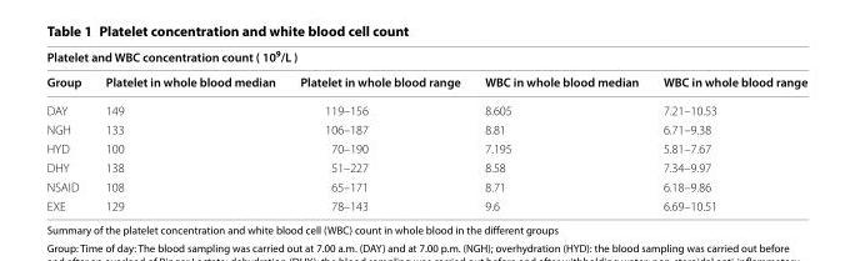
<table><thead><tr><td colspan="5">Platelet and WBC concentration count ( 10<sup>9</sup>/L )</td></tr><tr><td>Group</td><td>Platelet in whole blood median</td><td>Platelet in whole blood range</td><td>WBC in whole blood median</td><td>WBC in whole blood range</td></tr></thead><tbody><tr><td>DAY</td><td>149</td><td>119–156</td><td>8.605</td><td>7.21–10.53</td></tr><tr><td>NGH</td><td>133</td><td>106–187</td><td>8.81</td><td>6.71–9.38</td></tr><tr><td>HYD</td><td>100</td><td>70–190</td><td>7.195</td><td>5.81–7.67</td></tr><tr><td>DHY</td><td>138</td><td>51–227</td><td>8.58</td><td>7.34–9.97</td></tr><tr><td>NSAID</td><td>108</td><td>65–171</td><td>8.71</td><td>6.18–9.86</td></tr><tr><td>EXE</td><td>129</td><td>78–143</td><td>9.6</td><td>6.69–10.51</td></tr></tbody></table>